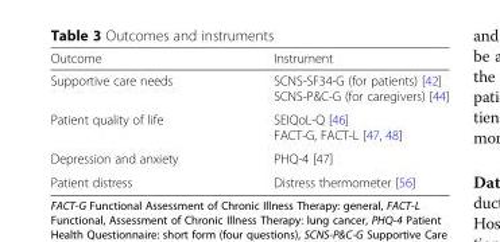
<table><thead><tr><td>Outcome</td><td>Instrument</td></tr></thead><tbody><tr><td>Supportive care needs</td><td>SCNS-SF34-G (for patients) [42] SCNS-P&amp;C-G (for caregivers) [44]</td></tr><tr><td>Patient quality of life</td><td>SEIQoL-Q [46] FACT-G, FACT-L [47, 48]</td></tr><tr><td>Depression and anxiety</td><td>PHQ-4 [47]</td></tr><tr><td>Patient distress</td><td>Distress thermometer [56]</td></tr></tbody></table>